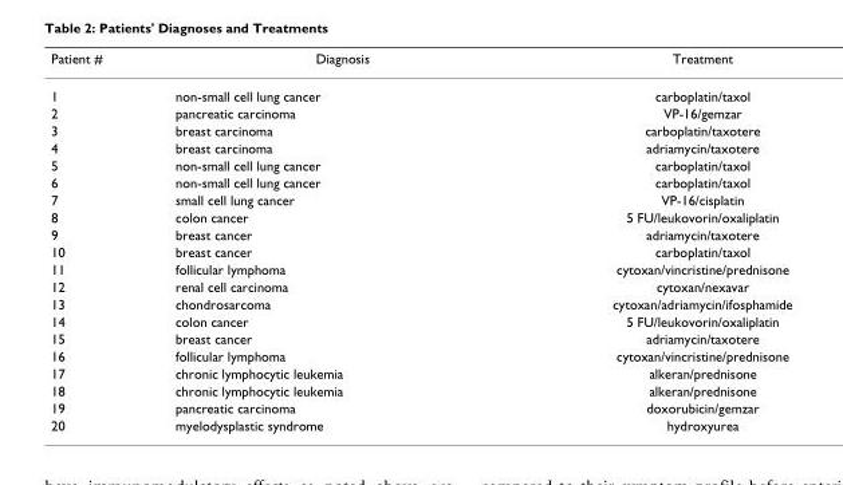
<table><thead><tr><td>Patient #</td><td>Diagnosis</td><td>Treatment</td></tr></thead><tbody><tr><td>1</td><td>non-small cell lung cancer</td><td>carboplatin/taxol</td></tr><tr><td>2</td><td>pancreatic carcinoma</td><td>VP-16/gemzar</td></tr><tr><td>3</td><td>breast carcinoma</td><td>carboplatin/taxotere</td></tr><tr><td>4</td><td>breast carcinoma</td><td>adriamycin/taxotere</td></tr><tr><td>5</td><td>non-small cell lung cancer</td><td>carboplatin/taxol</td></tr><tr><td>6</td><td>non-small cell lung cancer</td><td>carboplatin/taxol</td></tr><tr><td>7</td><td>small cell lung cancer</td><td>VP-16/cisplatin</td></tr><tr><td>8</td><td>colon cancer</td><td>5 FU/leukovorin/oxaliplatin</td></tr><tr><td>9</td><td>breast cancer</td><td>adriamycin/taxotere</td></tr><tr><td>10</td><td>breast cancer</td><td>carboplatin/taxol</td></tr><tr><td>11</td><td>follicular lymphoma</td><td>cytoxan/vincristine/prednisone</td></tr><tr><td>12</td><td>renal cell carcinoma</td><td>cytoxan/nexavar</td></tr><tr><td>13</td><td>chondrosarcoma</td><td>cytoxan/adriamycin/ifosphamide</td></tr><tr><td>14</td><td>colon cancer</td><td>5 FU/leukovorin/oxaliplatin</td></tr><tr><td>15</td><td>breast cancer</td><td>adriamycin/taxotere</td></tr><tr><td>16</td><td>follicular lymphoma</td><td>cytoxan/vincristine/prednisone</td></tr><tr><td>17</td><td>chronic lymphocytic leukemia</td><td>alkeran/prednisone</td></tr><tr><td>18</td><td>chronic lymphocytic leukemia</td><td>alkeran/prednisone</td></tr><tr><td>19</td><td>pancreatic carcinoma</td><td>doxorubicin/gemzar</td></tr><tr><td>20</td><td>myelodysplastic syndrome</td><td>hydroxyurea</td></tr></tbody></table>